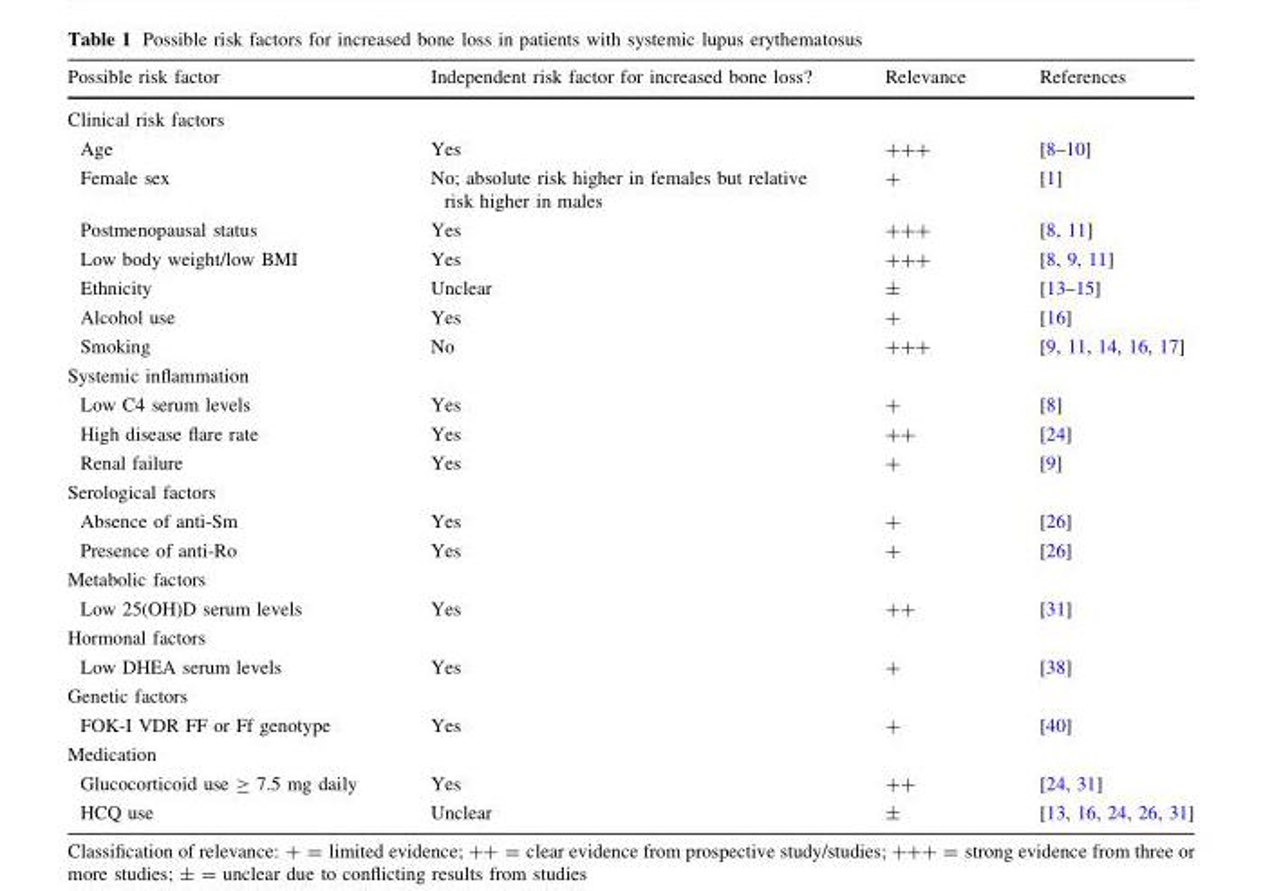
<table><thead><tr><td>Possible risk factor</td><td>Independent risk factor for increased bone loss?</td><td>Relevance</td><td>References</td></tr></thead><tbody><tr><td colspan="4">Clinical risk factors</td></tr><tr><td>Age</td><td>Yes</td><td>+++</td><td>[8–10]</td></tr><tr><td>Female sex</td><td>No; absolute risk higher in females but relative risk higher in males</td><td>+</td><td>[1]</td></tr><tr><td>Postmenopausal status</td><td>Yes</td><td>+++</td><td>[8, 11]</td></tr><tr><td>Low body weight/low BMI</td><td>Yes</td><td>+++</td><td>[8, 9, 11]</td></tr><tr><td>Ethnicity</td><td>Unclear</td><td>±</td><td>[13–15]</td></tr><tr><td>Alcohol use</td><td>Yes</td><td>+</td><td>[16]</td></tr><tr><td>Smoking</td><td>No</td><td>+++</td><td>[9, 11, 14, 16, 17]</td></tr><tr><td colspan="4">Systemic inflammation</td></tr><tr><td>Low C4 serum levels</td><td>Yes</td><td>+</td><td>[8]</td></tr><tr><td>High disease flare rate</td><td>Yes</td><td>++</td><td>[24]</td></tr><tr><td>Renal failure</td><td>Yes</td><td>+</td><td>[9]</td></tr><tr><td colspan="4">Serological factors</td></tr><tr><td>Absence of anti-Sm</td><td>Yes</td><td>+</td><td>[26]</td></tr><tr><td>Presence of anti-Ro</td><td>Yes</td><td>+</td><td>[26]</td></tr><tr><td colspan="4">Metabolic factors</td></tr><tr><td>Low 25(OH)D serum levels</td><td>Yes</td><td>++</td><td>[31]</td></tr><tr><td colspan="4">Hormonal factors</td></tr><tr><td>Low DHEA serum levels</td><td>Yes</td><td>+</td><td>[38]</td></tr><tr><td colspan="4">Genetic factors</td></tr><tr><td>FOK-I VDR FF or Ff genotype</td><td>Yes</td><td>+</td><td>[40]</td></tr><tr><td colspan="4">Medication</td></tr><tr><td>Glucocorticoid use ≥ 7.5 mg daily</td><td>Yes</td><td>++</td><td>[24, 31]</td></tr><tr><td>HCQ use</td><td>Unclear</td><td>±</td><td>[13, 16, 24, 26, 31]</td></tr></tbody></table>